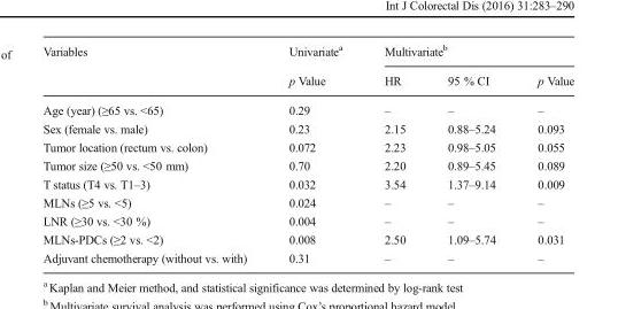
<table><thead><tr><td rowspan="2">Variables</td><td rowspan="2">Univariate<sup>a</sup> p Value</td><td colspan="3">Multivariate<sup>b</sup></td></tr><tr><td>HR</td><td>95 % CI</td><td>p Value</td></tr></thead><tbody><tr><td>Age (year) (≥65 vs. &lt;65)</td><td>0.29</td><td>–</td><td>–</td><td>–</td></tr><tr><td>Sex (female vs. male)</td><td>0.23</td><td>2.15</td><td>0.88–5.24</td><td>0.093</td></tr><tr><td>Tumor location (rectum vs. colon)</td><td>0.072</td><td>2.23</td><td>0.98–5.05</td><td>0.055</td></tr><tr><td>Tumor size (≥50 vs. &lt;50 mm)</td><td>0.70</td><td>2.20</td><td>0.89–5.45</td><td>0.089</td></tr><tr><td>T status (T4 vs. T1–3)</td><td>0.032</td><td>3.54</td><td>1.37–9.14</td><td>0.009</td></tr><tr><td>MLNs (≥5 vs. &lt;5)</td><td>0.024</td><td>–</td><td>–</td><td>–</td></tr><tr><td>LNR (≥30 vs. &lt;30 %)</td><td>0.004</td><td>–</td><td>–</td><td>–</td></tr><tr><td>MLNs-PDCs (≥2 vs. &lt;2)</td><td>0.008</td><td>2.50</td><td>1.09–5.74</td><td>0.031</td></tr><tr><td>Adjuvant chemotherapy (without vs. with)</td><td>0.31</td><td>–</td><td>–</td><td>–</td></tr></tbody></table>